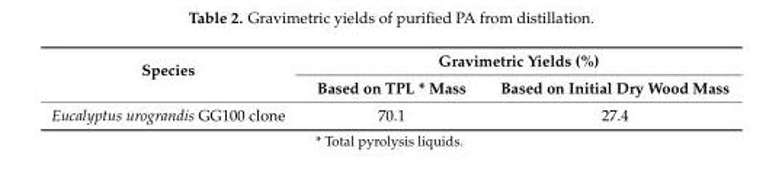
<table><thead><tr><td rowspan="2">Species</td><td colspan="2">Gravimetric Yields (%)</td></tr><tr><td>Based on TPL * Mass</td><td>Based on Initial Dry Wood Mass</td></tr></thead><tbody><tr><td>Eucalyptus urograndis GG100 clone</td><td>70.1</td><td>27.4</td></tr></tbody></table>